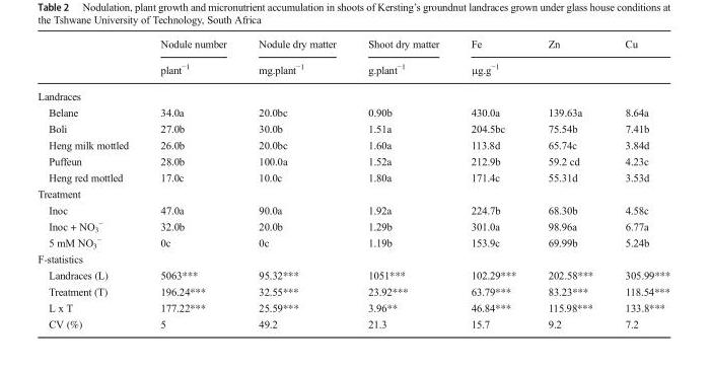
<table><thead><tr><td rowspan="2"></td><td rowspan="2">Nodule number plant<sup>−1</sup></td><td rowspan="2">Nodule dry matter mg.plant<sup>−1</sup></td><td rowspan="2">Shoot dry matter g.plant<sup>−1</sup></td><td>Fe</td><td>Zn</td><td>Cu</td></tr><tr><td colspan="3">μg.g<sup>−1</sup></td></tr></thead><tbody><tr><td colspan="7">Landraces</td></tr><tr><td>Belane</td><td>34.0a</td><td>20.0bc</td><td>0.90b</td><td>430.0a</td><td>139.63a</td><td>8.64a</td></tr><tr><td>Boli</td><td>27.0b</td><td>30.0b</td><td>1.51a</td><td>204.5bc</td><td>75.54b</td><td>7.41b</td></tr><tr><td>Heng milk mottled</td><td>26.0b</td><td>20.0bc</td><td>1.60a</td><td>113.8d</td><td>65.74c</td><td>3.84d</td></tr><tr><td>Puffeun</td><td>28.0b</td><td>100.0a</td><td>1.52a</td><td>212.9b</td><td>59.2 cd</td><td>4.23c</td></tr><tr><td>Heng red mottled</td><td>17.0c</td><td>10.0c</td><td>1.80a</td><td>171.4c</td><td>55.31d</td><td>3.53d</td></tr><tr><td colspan="7">Treatment</td></tr><tr><td>Inoc</td><td>47.0a</td><td>90.0a</td><td>1.92a</td><td>224.7b</td><td>68.30b</td><td>4.58c</td></tr><tr><td>Inoc + NO<sub>3</sub> <sup>−</sup></td><td>32.0b</td><td>20.0b</td><td>1.29b</td><td>301.0a</td><td>98.96a</td><td>6.77a</td></tr><tr><td>5 mM NO<sub>3</sub> <sup>−</sup></td><td>0c</td><td>0c</td><td>1.19b</td><td>153.9c</td><td>69.99b</td><td>5.24b</td></tr><tr><td colspan="7">F-statistics</td></tr><tr><td>Landraces (L)</td><td>5063***</td><td>95.32***</td><td>1051***</td><td>102.29***</td><td>202.58***</td><td>305.99***</td></tr><tr><td>Treatment (T)</td><td>196.24***</td><td>32.55***</td><td>23.92***</td><td>63.79***</td><td>83.23***</td><td>118.54***</td></tr><tr><td>L x T</td><td>177.22***</td><td>25.59***</td><td>3.96**</td><td>46.84***</td><td>115.98***</td><td>133.8***</td></tr><tr><td>CV (%)</td><td>5</td><td>49.2</td><td>21.3</td><td>15.7</td><td>9.2</td><td>7.2</td></tr></tbody></table>